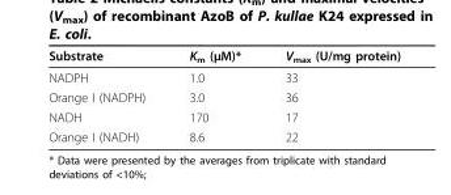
<table><thead><tr><td>Substrate</td><td>K<sub>m</sub> (μM)*</td><td>V<sub>max</sub> (U/mg protein)</td></tr></thead><tbody><tr><td>NADPH</td><td>1.0</td><td>33</td></tr><tr><td>Orange I (NADPH)</td><td>3.0</td><td>36</td></tr><tr><td>NADH</td><td>170</td><td>17</td></tr><tr><td>Orange I (NADH)</td><td>8.6</td><td>22</td></tr></tbody></table>